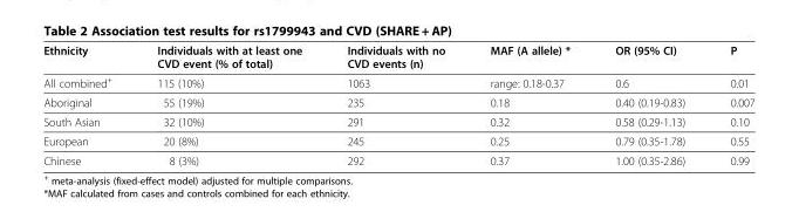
<table><thead><tr><td>Ethnicity</td><td>Individuals with at least one CVD event (% of total)</td><td>Individuals with no CVD events (n)</td><td>MAF (A allele) *</td><td>OR (95% CI)</td><td>P</td></tr></thead><tbody><tr><td>All combined<sup>+</sup></td><td>115 (10%)</td><td>1063</td><td>range: 0.18-0.37</td><td>0.6</td><td>0.01</td></tr><tr><td>Aboriginal</td><td>55 (19%)</td><td>235</td><td>0.18</td><td>0.40 (0.19-0.83)</td><td>0.007</td></tr><tr><td>South Asian</td><td>32 (10%)</td><td>291</td><td>0.32</td><td>0.58 (0.29-1.13)</td><td>0.10</td></tr><tr><td>European</td><td>20 (8%)</td><td>245</td><td>0.25</td><td>0.79 (0.35-1.78)</td><td>0.55</td></tr><tr><td>Chinese</td><td>8 (3%)</td><td>292</td><td>0.37</td><td>1.00 (0.35-2.86)</td><td>0.99</td></tr></tbody></table>